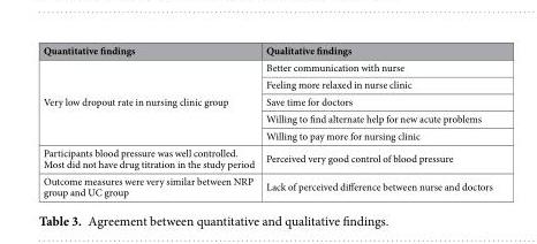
<table><thead><tr><td>Quantitative findings</td><td>Qualitative findings</td></tr></thead><tbody><tr><td rowspan="5">Very low dropout rate in nursing clinic group</td><td>Better communication with nurse</td></tr><tr><td>Feeling more relaxed in nurse clinic</td></tr><tr><td>Save time for doctors</td></tr><tr><td>Willing to find alternate help for new acute problems</td></tr><tr><td>Willing to pay more for nursing clinic</td></tr><tr><td>Participants blood pressure was well controlled. Most did not have drug titration in the study period</td><td>Perceived very good control of blood pressure</td></tr><tr><td>Outcome measures were very similar between NRP group and UC group</td><td>Lack of perceived difference between nurse and doctors</td></tr></tbody></table>